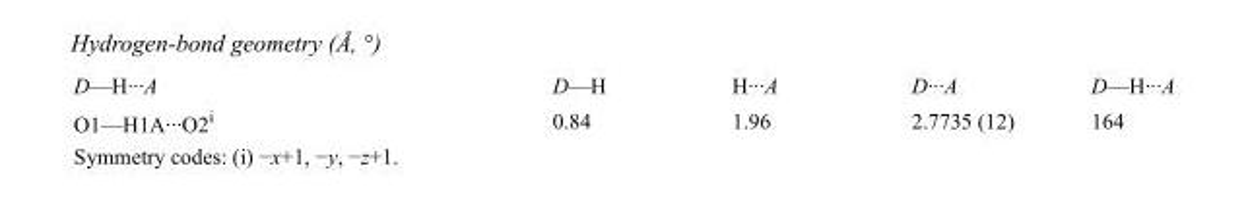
<table><tbody><tr><td>D—H···A</td><td>D—H</td><td>H···A</td><td>D···A</td><td>D—H···A</td></tr><tr><td>O1—H1A···O2<sup>i</sup></td><td>0.84</td><td>1.96</td><td>2.7735 (12)</td><td>164</td></tr></tbody></table>